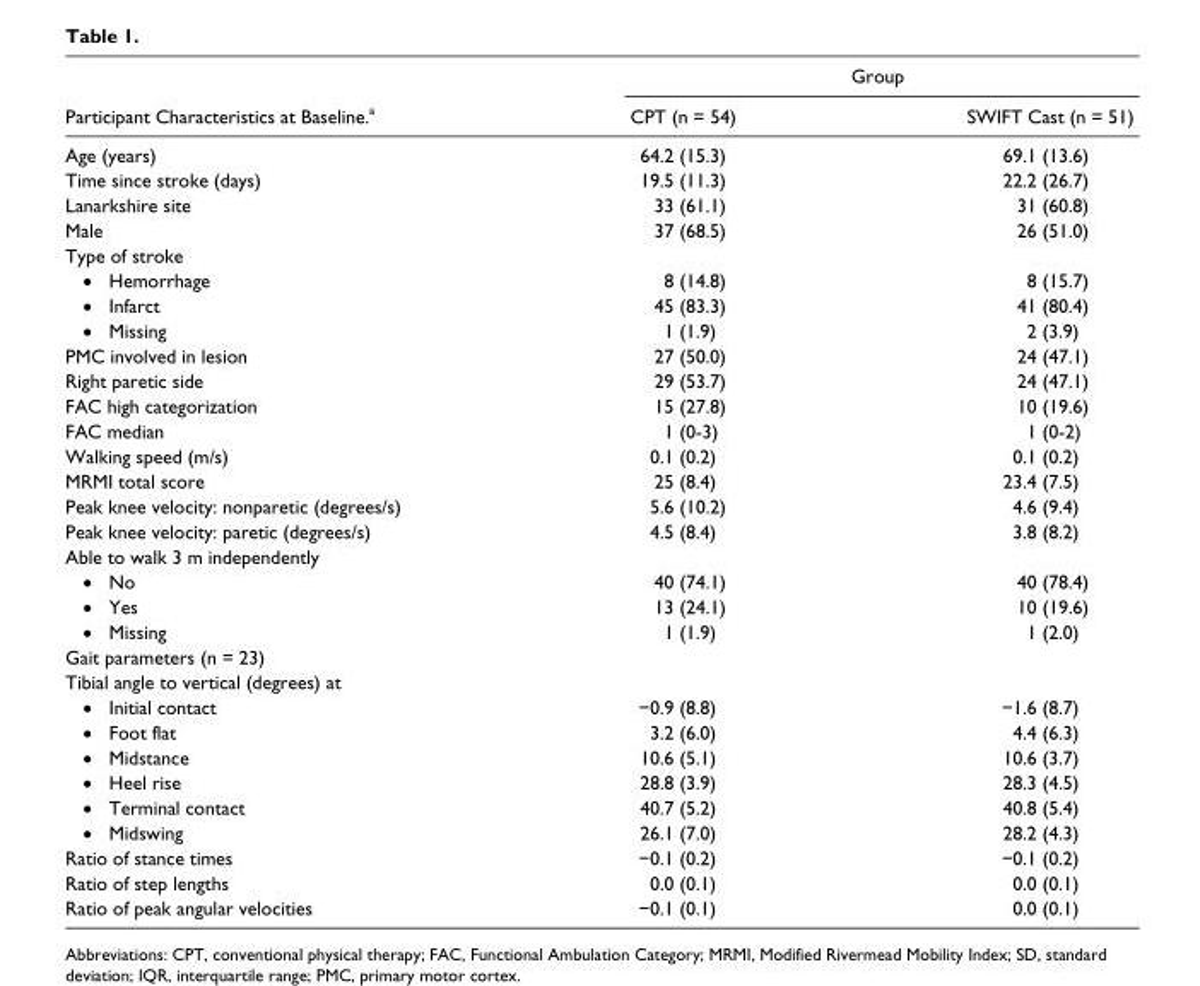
<table><thead><tr><td rowspan="2">Participant Characteristics at Baseline.<sup>a</sup></td><td colspan="2">Group</td></tr><tr><td>CPT (n = 54)</td><td>SWIFT Cast (n = 51)</td></tr></thead><tbody><tr><td>Age (years)</td><td>64.2 (15.3)</td><td>69.1 (13.6)</td></tr><tr><td>Time since stroke (days)</td><td>19.5 (11.3)</td><td>22.2 (26.7)</td></tr><tr><td>Lanarkshire site</td><td>33 (61.1)</td><td>31 (60.8)</td></tr><tr><td>Male</td><td>37 (68.5)</td><td>26 (51.0)</td></tr><tr><td colspan="3">Type of stroke</td></tr><tr><td>•• Hemorrhage</td><td>8 (14.8)</td><td>8 (15.7)</td></tr><tr><td>•• Infarct</td><td>45 (83.3)</td><td>41 (80.4)</td></tr><tr><td>•• Missing</td><td>1 (1.9)</td><td>2 (3.9)</td></tr><tr><td>PMC involved in lesion</td><td>27 (50.0)</td><td>24 (47.1)</td></tr><tr><td>Right paretic side</td><td>29 (53.7)</td><td>24 (47.1)</td></tr><tr><td>FAC high categorization</td><td>15 (27.8)</td><td>10 (19.6)</td></tr><tr><td>FAC median</td><td>1 (0-3)</td><td>1 (0-2)</td></tr><tr><td>Walking speed (m/s)</td><td>0.1 (0.2)</td><td>0.1 (0.2)</td></tr><tr><td>MRMI total score</td><td>25 (8.4)</td><td>23.4 (7.5)</td></tr><tr><td>Peak knee velocity: nonparetic (degrees/s)</td><td>5.6 (10.2)</td><td>4.6 (9.4)</td></tr><tr><td>Peak knee velocity: paretic (degrees/s)</td><td>4.5 (8.4)</td><td>3.8 (8.2)</td></tr><tr><td colspan="3">Able to walk 3 m independently</td></tr><tr><td>•• No</td><td>40 (74.1)</td><td>40 (78.4)</td></tr><tr><td>•• Yes</td><td>13 (24.1)</td><td>10 (19.6)</td></tr><tr><td>•• Missing</td><td>1 (1.9)</td><td>1 (2.0)</td></tr><tr><td colspan="3">Gait parameters (n = 23)</td></tr><tr><td colspan="3">Tibial angle to vertical (degrees) at</td></tr><tr><td>•• Initial contact</td><td>−0.9 (8.8)</td><td>−1.6 (8.7)</td></tr><tr><td>•• Foot flat</td><td>3.2 (6.0)</td><td>4.4 (6.3)</td></tr><tr><td>•• Midstance</td><td>10.6 (5.1)</td><td>10.6 (3.7)</td></tr><tr><td>•• Heel rise</td><td>28.8 (3.9)</td><td>28.3 (4.5)</td></tr><tr><td>•• Terminal contact</td><td>40.7 (5.2)</td><td>40.8 (5.4)</td></tr><tr><td>•• Midswing</td><td>26.1 (7.0)</td><td>28.2 (4.3)</td></tr><tr><td>Ratio of stance times</td><td>−0.1 (0.2)</td><td>−0.1 (0.2)</td></tr><tr><td>Ratio of step lengths</td><td>0.0 (0.1)</td><td>0.0 (0.1)</td></tr><tr><td>Ratio of peak angular velocities</td><td>−0.1 (0.1)</td><td>0.0 (0.1)</td></tr></tbody></table>